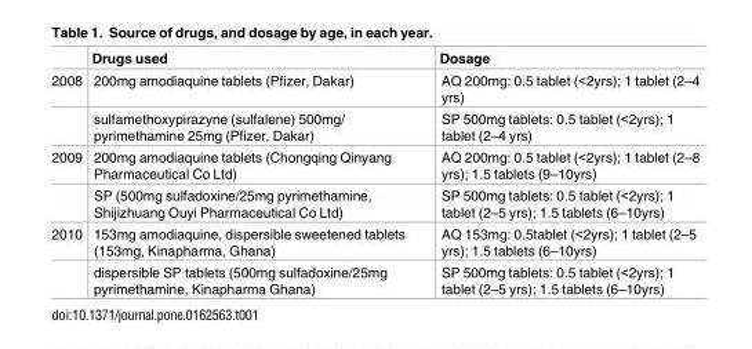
<table><thead><tr><td></td><td>Drugs used</td><td>Dosage</td></tr></thead><tbody><tr><td rowspan="2">2008</td><td>200mg amodiaquine tablets (Pfizer, Dakar)</td><td>AQ 200mg: 0.5 tablet (&lt;2yrs); 1 tablet (2–4 yrs)</td></tr><tr><td>sulfamethoxypirazyne (sulfalene) 500mg/ pyrimethamine 25mg (Pfizer, Dakar)</td><td>SP 500mg tablets: 0.5 tablet (&lt;2yrs); 1 tablet (2–4 yrs)</td></tr><tr><td rowspan="2">2009</td><td>200mg amodiaquine tablets (Chongqing Qinyang Pharmaceutical Co Ltd)</td><td>AQ 200mg: 0.5 tablet (&lt;2yrs); 1 tablet (2–8 yrs); 1.5 tablets (9–10yrs)</td></tr><tr><td>SP (500mg sulfadoxine/25mg pyrimethamine, Shijizhuang Ouyi Pharmaceutical Co Ltd)</td><td>SP 500mg tablets: 0.5 tablet (&lt;2yrs); 1 tablet (2–5 yrs); 1.5 tablets (6–10yrs)</td></tr><tr><td rowspan="2">2010</td><td>153mg amodiaquine, dispersible sweetened tablets (153mg, Kinapharma, Ghana)</td><td>AQ 153mg: 0.5tablet (&lt;2yrs); 1 tablet (2–5 yrs); 1.5 tablets (6–10yrs)</td></tr><tr><td>dispersible SP tablets (500mg sulfadoxine/25mg pyrimethamine, Kinapharma Ghana)</td><td>SP 500mg tablets: 0.5 tablet (&lt;2yrs); 1 tablet (2–5 yrs); 1.5 tablets (6–10yrs)</td></tr></tbody></table>